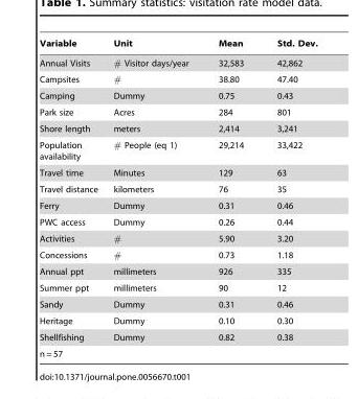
<table><thead><tr><td>Variable</td><td>Unit</td><td>Mean</td><td>Std. Dev.</td></tr></thead><tbody><tr><td>Annual Visits</td><td># Visitor days/year</td><td>32,583</td><td>42,862</td></tr><tr><td>Campsites</td><td>#</td><td>38.80</td><td>47.40</td></tr><tr><td>Camping</td><td>Dummy</td><td>0.75</td><td>0.43</td></tr><tr><td>Park size</td><td>Acres</td><td>284</td><td>801</td></tr><tr><td>Shore length</td><td>meters</td><td>2,414</td><td>3,241</td></tr><tr><td>Population availability</td><td># People (eq 1)</td><td>29,214</td><td>33,422</td></tr><tr><td>Travel time</td><td>Minutes</td><td>129</td><td>63</td></tr><tr><td>Travel distance</td><td>kilometers</td><td>76</td><td>35</td></tr><tr><td>Ferry</td><td>Dummy</td><td>0.31</td><td>0.46</td></tr><tr><td>PWC access</td><td>Dummy</td><td>0.26</td><td>0.44</td></tr><tr><td>Activities</td><td>#</td><td>5.90</td><td>3.20</td></tr><tr><td>Concessions</td><td>#</td><td>0.73</td><td>1.18</td></tr><tr><td>Annual ppt</td><td>millimeters</td><td>926</td><td>335</td></tr><tr><td>Summer ppt</td><td>millimeters</td><td>90</td><td>12</td></tr><tr><td>Sandy</td><td>Dummy</td><td>0.31</td><td>0.46</td></tr><tr><td>Heritage</td><td>Dummy</td><td>0.10</td><td>0.30</td></tr><tr><td>Shellfishing</td><td>Dummy</td><td>0.82</td><td>0.38</td></tr><tr><td>n = 57</td><td></td><td></td><td></td></tr></tbody></table>